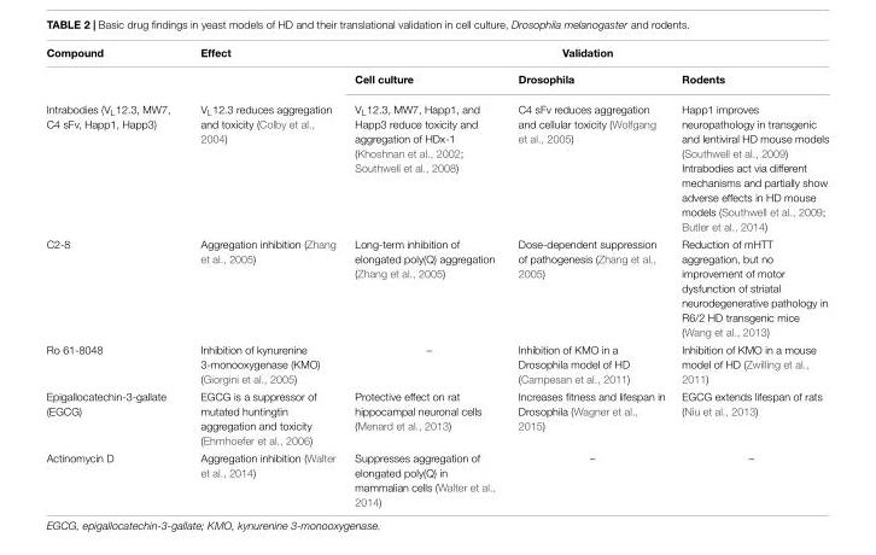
<table><thead><tr><td rowspan="2">Compound</td><td rowspan="2">Effect</td><td colspan="3">Validation</td></tr><tr><td>Cell culture</td><td>Drosophila</td><td>Rodents</td></tr></thead><tbody><tr><td>Intrabodies (V<sub>L</sub>12.3, MW7, C4 sFv, Happ1, Happ3)</td><td>V<sub>L</sub>12.3 reduces aggregation and toxicity (Colby et al., 2004)</td><td>V<sub>L</sub>12.3, MW7, Happ1, and Happ3 reduce toxicity and aggregation of HDx-1 (Khoshnan et al., 2002; Southwell et al., 2008)</td><td>C4 sFv reduces aggregation and cellular toxicity (Wolfgang et al., 2005)</td><td>Happ1 improves neuropathology in transgenic and lentiviral HD mouse models (Southwell et al., 2009) Intrabodies act via different mechanisms and partially show adverse effects in HD mouse models (Southwell et al., 2009; Butler et al., 2014)</td></tr><tr><td>C2-8</td><td>Aggregation inhibition (Zhang et al., 2005)</td><td>Long-term inhibition of elongated poly(Q) aggregation (Zhang et al., 2005)</td><td>Dose-dependent suppression of pathogenesis (Zhang et al., 2005)</td><td>Reduction of mHTT aggregation, but no improvement of motor dysfunction of striatal neurodegenerative pathology in R6/2 HD transgenic mice (Wang et al., 2013)</td></tr><tr><td>Ro 61-8048</td><td>Inhibition of kynurenine 3-monooxygenase (KMO) (Giorgini et al., 2005)</td><td>–</td><td>Inhibition of KMO in a Drosophila model of HD (Campesan et al., 2011)</td><td>Inhibition of KMO in a mouse model of HD (Zwilling et al., 2011)</td></tr><tr><td>Epigallocatechin-3-gallate (EGCG)</td><td>EGCG is a suppressor of mutated huntingtin aggregation and toxicity (Ehrnhoefer et al., 2006)</td><td>Protective effect on rat hippocampal neuronal cells (Menard et al., 2013)</td><td>Increases fitness and lifespan in Drosophila (Wagner et al., 2015)</td><td>EGCG extends lifespan of rats (Niu et al., 2013)</td></tr><tr><td>Actinomycin D</td><td>Aggregation inhibition (Walter et al., 2014)</td><td>Suppresses aggregation of elongated poly(Q) in mammalian cells (Walter et al., 2014)</td><td>–</td><td>–</td></tr></tbody></table>